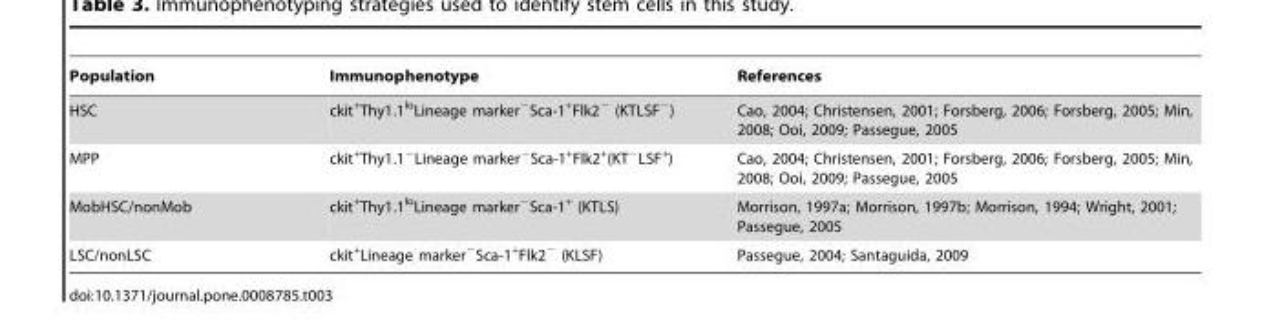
<table><thead><tr><td>Population</td><td>Immunophenotype</td><td>References</td></tr></thead><tbody><tr><td>HSC</td><td>ckit<sup>+</sup>Thy1.1<sup>lo</sup>Lineage marker<sup>−</sup>Sca-1<sup>+</sup>Flk2<sup>−</sup> (KTLSF<sup>−</sup>)</td><td>Cao, 2004; Christensen, 2001; Forsberg, 2006; Forsberg, 2005; Min, 2008; Ooi, 2009; Passegue, 2005</td></tr><tr><td>MPP</td><td>ckit<sup>+</sup>Thy1.1<sup>−</sup>Lineage marker<sup>−</sup>Sca-1<sup>+</sup>Flk2<sup>+</sup>(KT<sup>−</sup>LSF<sup>+</sup>)</td><td>Cao, 2004; Christensen, 2001; Forsberg, 2006; Forsberg, 2005; Min, 2008; Ooi, 2009; Passegue, 2005</td></tr><tr><td>MobHSC/nonMob</td><td>ckit<sup>+</sup>Thy1.1<sup>lo</sup>Lineage marker<sup>−</sup>Sca-1<sup>+</sup> (KTLS)</td><td>Morrison, 1997a; Morrison, 1997b; Morrison, 1994; Wright, 2001; Passegue, 2005</td></tr><tr><td>LSC/nonLSC</td><td>ckit<sup>+</sup>Lineage marker<sup>−</sup>Sca-1<sup>+</sup>Flk2<sup>−</sup> (KLSF)</td><td>Passegue, 2004; Santaguida, 2009</td></tr></tbody></table>